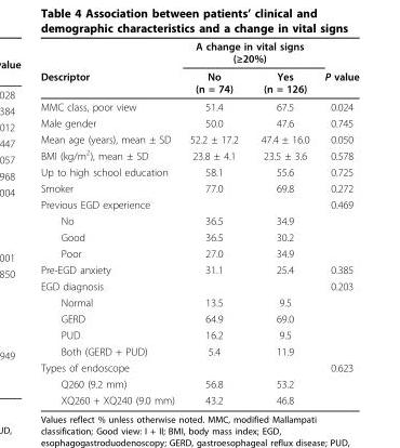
<table><thead><tr><td rowspan="2">Descriptor</td><td colspan="2">A change in vital signs (≥20%)</td><td rowspan="2">P value</td></tr><tr><td>No (n = 74)</td><td>Yes (n = 126)</td></tr></thead><tbody><tr><td>MMC class, poor view</td><td>51.4</td><td>67.5</td><td>0.024</td></tr><tr><td>Male gender</td><td>50.0</td><td>47.6</td><td>0.745</td></tr><tr><td>Mean age (years), mean ± SD</td><td>52.2 ± 17.2</td><td>47.4 ± 16.0</td><td>0.050</td></tr><tr><td>BMI (kg/m<sup>2</sup>), mean ± SD</td><td>23.8 ± 4.1</td><td>23.5 ± 3.6</td><td>0.578</td></tr><tr><td>Up to high school education</td><td>58.1</td><td>55.6</td><td>0.725</td></tr><tr><td>Smoker</td><td>77.0</td><td>69.8</td><td>0.272</td></tr><tr><td>Previous EGD experience</td><td></td><td></td><td>0.469</td></tr><tr><td>No</td><td>36.5</td><td>34.9</td><td></td></tr><tr><td>Good</td><td>36.5</td><td>30.2</td><td></td></tr><tr><td>Poor</td><td>27.0</td><td>34.9</td><td></td></tr><tr><td>Pre-EGD anxiety</td><td>31.1</td><td>25.4</td><td>0.385</td></tr><tr><td>EGD diagnosis</td><td></td><td></td><td>0.203</td></tr><tr><td>Normal</td><td>13.5</td><td>9.5</td><td></td></tr><tr><td>GERD</td><td>64.9</td><td>69.0</td><td></td></tr><tr><td>PUD</td><td>16.2</td><td>9.5</td><td></td></tr><tr><td>Both (GERD + PUD)</td><td>5.4</td><td>11.9</td><td></td></tr><tr><td>Types of endoscope</td><td></td><td></td><td>0.623</td></tr><tr><td>Q260 (9.2 mm)</td><td>56.8</td><td>53.2</td><td></td></tr><tr><td>XQ260 + XQ240 (9.0 mm)</td><td>43.2</td><td>46.8</td><td></td></tr></tbody></table>